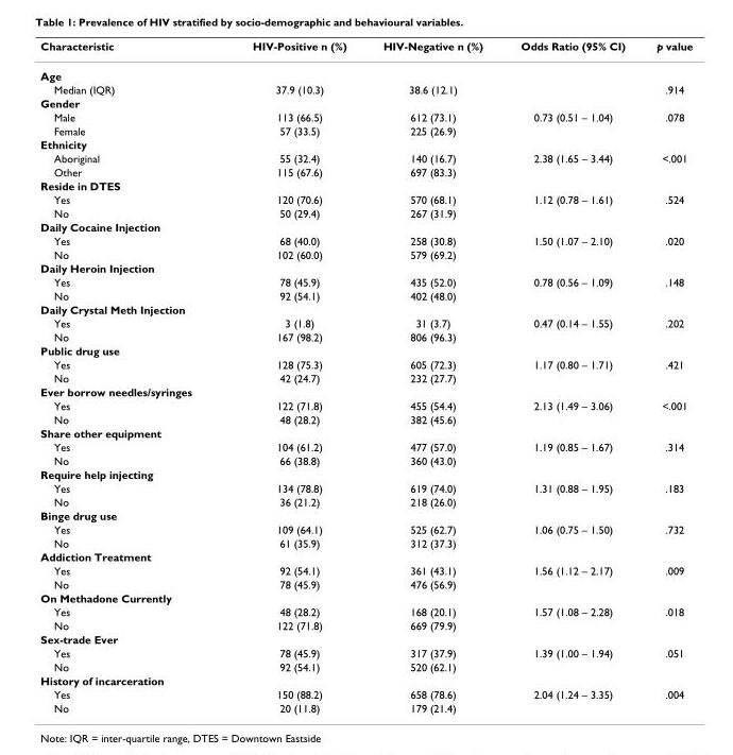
<table><thead><tr><td>Characteristic</td><td>HIV-Positive n (%)</td><td>HIV-Negative n (%)</td><td>Odds Ratio (95% CI)</td><td>p value</td></tr></thead><tbody><tr><td colspan="5">Age</td></tr><tr><td>Median (IQR)</td><td>37.9 (10.3)</td><td>38.6 (12.1)</td><td></td><td>.914</td></tr><tr><td colspan="5">Gender</td></tr><tr><td>Male</td><td>113 (66.5)</td><td>612 (73.1)</td><td>0.73 (0.51 – 1.04)</td><td>.078</td></tr><tr><td>Female</td><td>57 (33.5)</td><td>225 (26.9)</td><td></td><td></td></tr><tr><td colspan="5">Ethnicity</td></tr><tr><td>Aboriginal</td><td>55 (32.4)</td><td>140 (16.7)</td><td>2.38 (1.65 – 3.44)</td><td>&lt;.001</td></tr><tr><td>Other</td><td>115 (67.6)</td><td>697 (83.3)</td><td></td><td></td></tr><tr><td colspan="5">Reside in DTES</td></tr><tr><td>Yes</td><td>120 (70.6)</td><td>570 (68.1)</td><td>1.12 (0.78 – 1.61)</td><td>.524</td></tr><tr><td>No</td><td>50 (29.4)</td><td>267 (31.9)</td><td></td><td></td></tr><tr><td colspan="5">Daily Cocaine Injection</td></tr><tr><td>Yes</td><td>68 (40.0)</td><td>258 (30.8)</td><td>1.50 (1.07 – 2.10)</td><td>.020</td></tr><tr><td>No</td><td>102 (60.0)</td><td>579 (69.2)</td><td></td><td></td></tr><tr><td colspan="5">Daily Heroin Injection</td></tr><tr><td>Yes</td><td>78 (45.9)</td><td>435 (52.0)</td><td>0.78 (0.56 – 1.09)</td><td>.148</td></tr><tr><td>No</td><td>92 (54.1)</td><td>402 (48.0)</td><td></td><td></td></tr><tr><td colspan="5">Daily Crystal Meth Injection</td></tr><tr><td>Yes</td><td>3 (1.8)</td><td>31 (3.7)</td><td>0.47 (0.14 – 1.55)</td><td>.202</td></tr><tr><td>No</td><td>167 (98.2)</td><td>806 (96.3)</td><td></td><td></td></tr><tr><td colspan="5">Public drug use</td></tr><tr><td>Yes</td><td>128 (75.3)</td><td>605 (72.3)</td><td>1.17 (0.80 – 1.71)</td><td>.421</td></tr><tr><td>No</td><td>42 (24.7)</td><td>232 (27.7)</td><td></td><td></td></tr><tr><td colspan="5">Ever borrow needles/syringes</td></tr><tr><td>Yes</td><td>122 (71.8)</td><td>455 (54.4)</td><td>2.13 (1.49 – 3.06)</td><td>&lt;.001</td></tr><tr><td>No</td><td>48 (28.2)</td><td>382 (45.6)</td><td></td><td></td></tr><tr><td colspan="5">Share other equipment</td></tr><tr><td>Yes</td><td>104 (61.2)</td><td>477 (57.0)</td><td>1.19 (0.85 – 1.67)</td><td>.314</td></tr><tr><td>No</td><td>66 (38.8)</td><td>360 (43.0)</td><td></td><td></td></tr><tr><td colspan="5">Require help injecting</td></tr><tr><td>Yes</td><td>134 (78.8)</td><td>619 (74.0)</td><td>1.31 (0.88 – 1.95)</td><td>.183</td></tr><tr><td>No</td><td>36 (21.2)</td><td>218 (26.0)</td><td></td><td></td></tr><tr><td colspan="5">Binge drug use</td></tr><tr><td>Yes</td><td>109 (64.1)</td><td>525 (62.7)</td><td>1.06 (0.75 – 1.50)</td><td>.732</td></tr><tr><td>No</td><td>61 (35.9)</td><td>312 (37.3)</td><td></td><td></td></tr><tr><td colspan="5">Addiction Treatment</td></tr><tr><td>Yes</td><td>92 (54.1)</td><td>361 (43.1)</td><td>1.56 (1.12 – 2.17)</td><td>.009</td></tr><tr><td>No</td><td>78 (45.9)</td><td>476 (56.9)</td><td></td><td></td></tr><tr><td colspan="5">On Methadone Currently</td></tr><tr><td>Yes</td><td>48 (28.2)</td><td>168 (20.1)</td><td>1.57 (1.08 – 2.28)</td><td>.018</td></tr><tr><td>No</td><td>122 (71.8)</td><td>669 (79.9)</td><td></td><td></td></tr><tr><td colspan="5">Sex-trade Ever</td></tr><tr><td>Yes</td><td>78 (45.9)</td><td>317 (37.9)</td><td>1.39 (1.00 – 1.94)</td><td>.051</td></tr><tr><td>No</td><td>92 (54.1)</td><td>520 (62.1)</td><td></td><td></td></tr><tr><td colspan="5">History of incarceration</td></tr><tr><td>Yes</td><td>150 (88.2)</td><td>658 (78.6)</td><td>2.04 (1.24 – 3.35)</td><td>.004</td></tr><tr><td>No</td><td>20 (11.8)</td><td>179 (21.4)</td><td></td><td></td></tr></tbody></table>